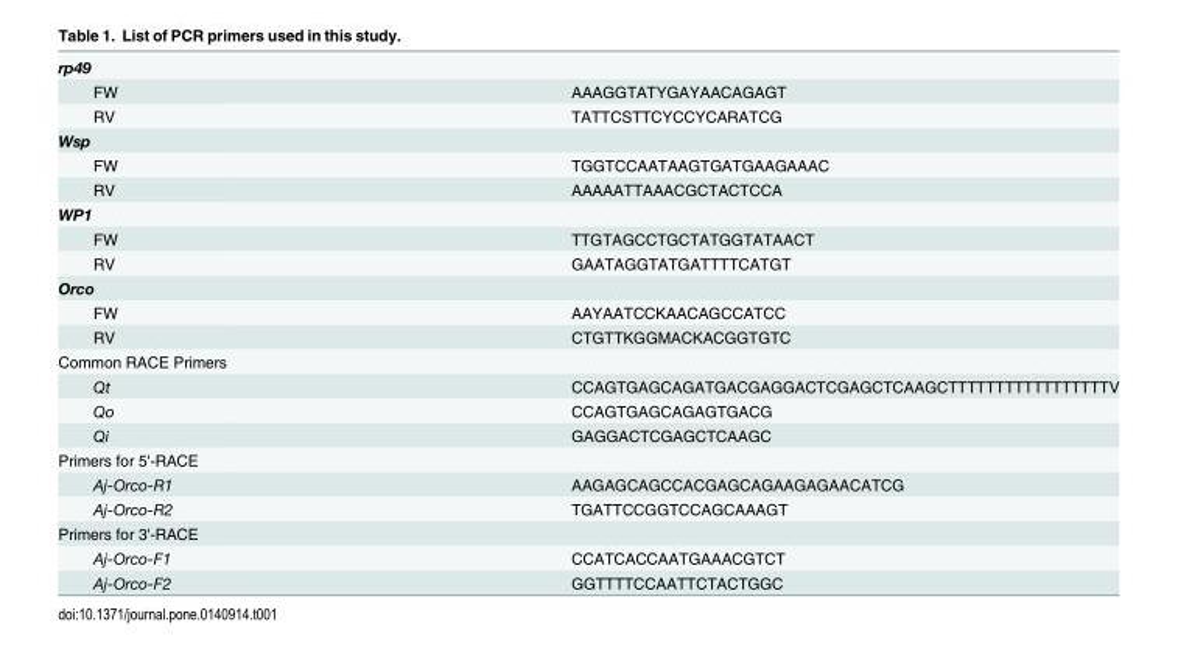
<table><tbody><tr><td colspan="2">rp49</td></tr><tr><td>FW</td><td>AAAGGTATYGAYAACAGAGT</td></tr><tr><td>RV</td><td>TATTCSTTCYCCYCARATCG</td></tr><tr><td colspan="2">Wsp</td></tr><tr><td>FW</td><td>TGGTCCAATAAGTGATGAAGAAAC</td></tr><tr><td>RV</td><td>AAAAATTAAACGCTACTCCA</td></tr><tr><td colspan="2">WP1</td></tr><tr><td>FW</td><td>TTGTAGCCTGCTATGGTATAACT</td></tr><tr><td>RV</td><td>GAATAGGTATGATTTTCATGT</td></tr><tr><td colspan="2">Orco</td></tr><tr><td>FW</td><td>AAYAATCCKAACAGCCATCC</td></tr><tr><td>RV</td><td>CTGTTKGGMACKACGGTGTC</td></tr><tr><td colspan="2">Common RACE Primers</td></tr><tr><td>Qt</td><td>CCAGTGAGCAGATGACGAGGACTCGAGCTCAAGCTTTTTTTTTTTTTTTTTV</td></tr><tr><td>Qo</td><td>CCAGTGAGCAGAGTGACG</td></tr><tr><td>Qi</td><td>GAGGACTCGAGCTCAAGC</td></tr><tr><td colspan="2">Primers for 5&#x27;-RACE</td></tr><tr><td>Aj-Orco-R1</td><td>AAGAGCAGCCACGAGCAGAAGAGAACATCG</td></tr><tr><td>Aj-Orco-R2</td><td>TGATTCCGGTCCAGCAAAGT</td></tr><tr><td colspan="2">Primers for 3&#x27;-RACE</td></tr><tr><td>Aj-Orco-F1</td><td>CCATCACCAATGAAACGTCT</td></tr><tr><td>Aj-Orco-F2</td><td>GGTTTTCCAATTCTACTGGC</td></tr></tbody></table>